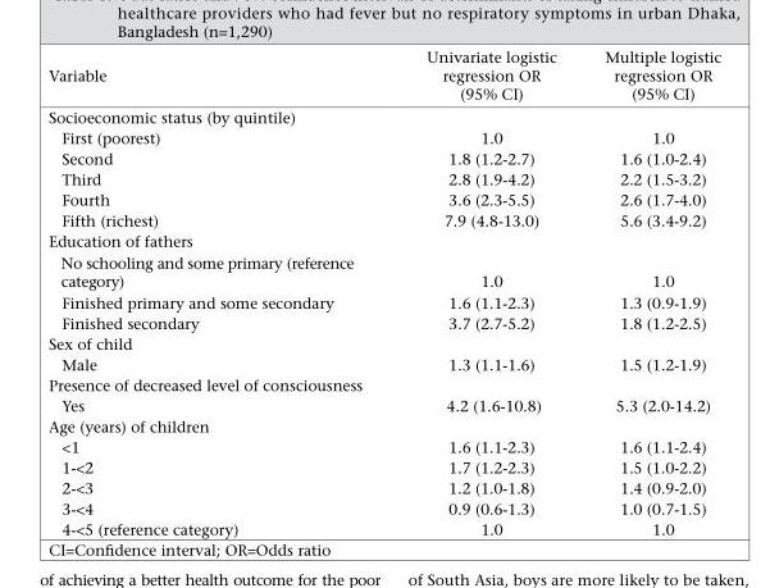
<table><thead><tr><td>Variable</td><td>Univariate logistic regression OR (95% CI)</td><td>Multiple logistic regression OR (95% CI)</td></tr></thead><tbody><tr><td colspan="3">Socioeconomic status (by quintile)</td></tr><tr><td>First (poorest)</td><td>1.0</td><td>1.0</td></tr><tr><td>Second</td><td>1.8 (1.2-2.7)</td><td>1.6 (1.0-2.4)</td></tr><tr><td>Third</td><td>2.8 (1.9-4.2)</td><td>2.2 (1.5-3.2)</td></tr><tr><td>Fourth</td><td>3.6 (2.3-5.5)</td><td>2.6 (1.7-4.0)</td></tr><tr><td>Fifth (richest)</td><td>7.9 (4.8-13.0)</td><td>5.6 (3.4-9.2)</td></tr><tr><td colspan="3">Education of fathers</td></tr><tr><td>No schooling and some primary (reference category)</td><td>1.0</td><td>1.0</td></tr><tr><td>Finished primary and some secondary</td><td>1.6 (1.1-2.3)</td><td>1.3 (0.9-1.9)</td></tr><tr><td>Finished secondary</td><td>3.7 (2.7-5.2)</td><td>1.8 (1.2-2.5)</td></tr><tr><td colspan="3">Sex of child</td></tr><tr><td>Male</td><td>1.3 (1.1-1.6)</td><td>1.5 (1.2-1.9)</td></tr><tr><td colspan="3">Presence of decreased level of consciousness</td></tr><tr><td>Yes</td><td>4.2 (1.6-10.8)</td><td>5.3 (2.0-14.2)</td></tr><tr><td colspan="3">Age (years) of children</td></tr><tr><td>&lt;1</td><td>1.6 (1.1-2.3)</td><td>1.6 (1.1-2.4)</td></tr><tr><td>1-&lt;2</td><td>1.7 (1.2-2.3)</td><td>1.5 (1.0-2.2)</td></tr><tr><td>2-&lt;3</td><td>1.2 (1.0-1.8)</td><td>1.4 (0.9-2.0)</td></tr><tr><td>3-&lt;4</td><td>0.9 (0.6-1.3)</td><td>1.0 (0.7-1.5)</td></tr><tr><td>4-&lt;5 (reference category)</td><td>1.0</td><td>1.0</td></tr></tbody></table>